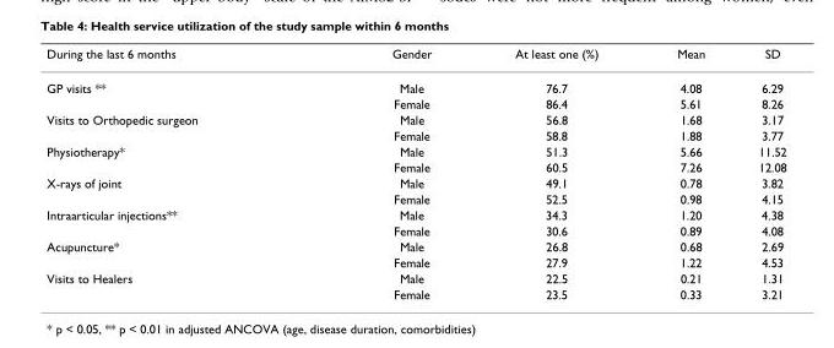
<table><thead><tr><td>During the last 6 months</td><td>Gender</td><td>At least one (%)</td><td>Mean</td><td>SD</td></tr></thead><tbody><tr><td rowspan="2">GP visits **</td><td>Male</td><td>76.7</td><td>4.08</td><td>6.29</td></tr><tr><td>Female</td><td>86.4</td><td>5.61</td><td>8.26</td></tr><tr><td rowspan="2">Visits to Orthopedic surgeon</td><td>Male</td><td>56.8</td><td>1.68</td><td>3.17</td></tr><tr><td>Female</td><td>58.8</td><td>1.88</td><td>3.77</td></tr><tr><td rowspan="2">Physiotherapy*</td><td>Male</td><td>51.3</td><td>5.66</td><td>11.52</td></tr><tr><td>Female</td><td>60.5</td><td>7.26</td><td>12.08</td></tr><tr><td rowspan="2">X-rays of joint</td><td>Male</td><td>49.1</td><td>0.78</td><td>3.82</td></tr><tr><td>Female</td><td>52.5</td><td>0.98</td><td>4.15</td></tr><tr><td rowspan="2">Intraarticular injections**</td><td>Male</td><td>34.3</td><td>1.20</td><td>4.38</td></tr><tr><td>Female</td><td>30.6</td><td>0.89</td><td>4.08</td></tr><tr><td rowspan="2">Acupuncture*</td><td>Male</td><td>26.8</td><td>0.68</td><td>2.69</td></tr><tr><td>Female</td><td>27.9</td><td>1.22</td><td>4.53</td></tr><tr><td rowspan="2">Visits to Healers</td><td>Male</td><td>22.5</td><td>0.21</td><td>1.31</td></tr><tr><td>Female</td><td>23.5</td><td>0.33</td><td>3.21</td></tr></tbody></table>